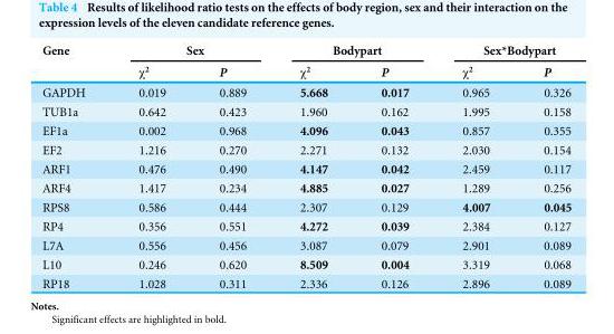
<table><thead><tr><td rowspan="2">Gene</td><td colspan="2">Sex</td><td colspan="2">Bodypart</td><td colspan="2">Sex*Bodypart</td></tr><tr><td>χ<sup>2</sup></td><td>P</td><td>χ<sup>2</sup></td><td>P</td><td>χ<sup>2</sup></td><td>P</td></tr></thead><tbody><tr><td>GAPDH</td><td>0.019</td><td>0.889</td><td>5.668</td><td>0.017</td><td>0.965</td><td>0.326</td></tr><tr><td>TUB1a</td><td>0.642</td><td>0.423</td><td>1.960</td><td>0.162</td><td>1.995</td><td>0.158</td></tr><tr><td>EF1a</td><td>0.002</td><td>0.968</td><td>4.096</td><td>0.043</td><td>0.857</td><td>0.355</td></tr><tr><td>EF2</td><td>1.216</td><td>0.270</td><td>2.271</td><td>0.132</td><td>2.030</td><td>0.154</td></tr><tr><td>ARF1</td><td>0.476</td><td>0.490</td><td>4.147</td><td>0.042</td><td>2.459</td><td>0.117</td></tr><tr><td>ARF4</td><td>1.417</td><td>0.234</td><td>4.885</td><td>0.027</td><td>1.289</td><td>0.256</td></tr><tr><td>RPS8</td><td>0.586</td><td>0.444</td><td>2.307</td><td>0.129</td><td>4.007</td><td>0.045</td></tr><tr><td>RP4</td><td>0.356</td><td>0.551</td><td>4.272</td><td>0.039</td><td>2.384</td><td>0.127</td></tr><tr><td>L7A</td><td>0.556</td><td>0.456</td><td>3.087</td><td>0.079</td><td>2.901</td><td>0.089</td></tr><tr><td>L10</td><td>0.246</td><td>0.620</td><td>8.509</td><td>0.004</td><td>3.319</td><td>0.068</td></tr><tr><td>RP18</td><td>1.028</td><td>0.311</td><td>2.336</td><td>0.126</td><td>2.896</td><td>0.089</td></tr></tbody></table>